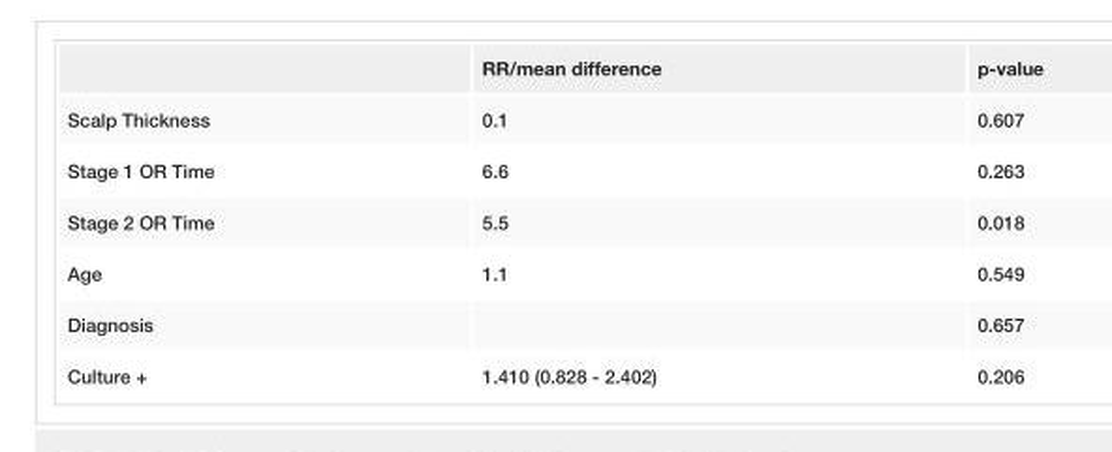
<table><thead><tr><td></td><td>RR/mean difference</td><td>p-value</td></tr></thead><tbody><tr><td>Scalp Thickness</td><td>0.1</td><td>0.607</td></tr><tr><td>Stage 1 OR Time</td><td>6.6</td><td>0.263</td></tr><tr><td>Stage 2 OR Time</td><td>5.5</td><td>0.018</td></tr><tr><td>Age</td><td>1.1</td><td>0.549</td></tr><tr><td>Diagnosis</td><td></td><td>0.657</td></tr><tr><td>Culture +</td><td>1.410 (0.828 - 2.402)</td><td>0.206</td></tr></tbody></table>